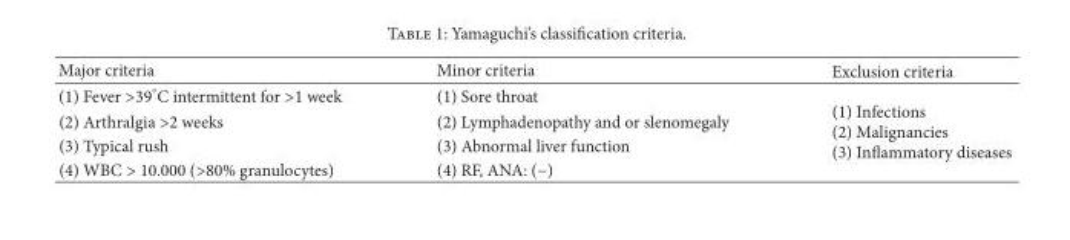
<table><thead><tr><td>Major criteria</td><td>Minor criteria</td><td>Exclusion criteria</td></tr></thead><tbody><tr><td>(1) Fever &gt;39∘C intermittent for &gt;1 week</td><td>(1) Sore throat</td><td rowspan="4">(1) Infections (2) Malignancies (3) In�ammatory diseases</td></tr><tr><td>(2) Arthralgia &gt;2 weeks</td><td>(2) Lymphadenopathy and or slenomegaly</td></tr><tr><td>(3) Typical rush</td><td>(3) Abnormal liver function</td></tr><tr><td>(4) WBC &gt; 10.000 (&gt;80% granulocytes)</td><td>(4) RF, ANA: (−)</td></tr></tbody></table>